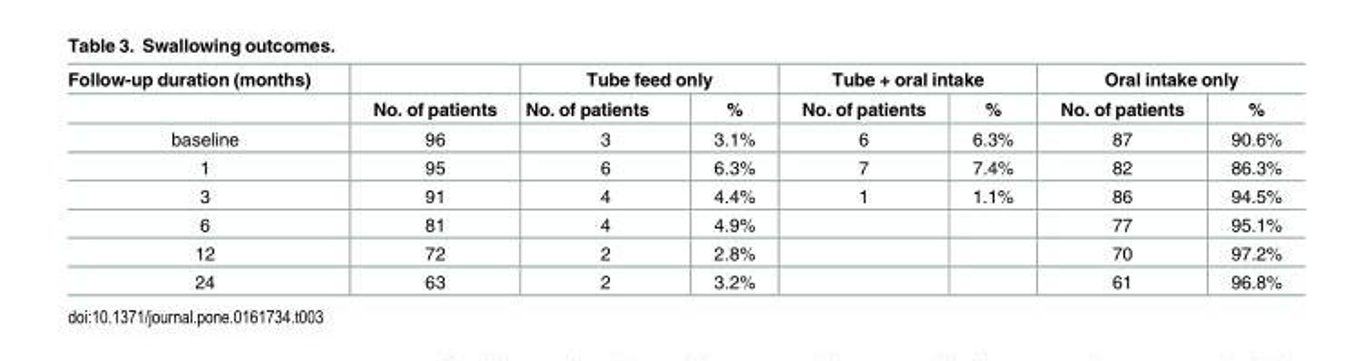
<table><thead><tr><td rowspan="2">Follow-up duration (months)</td><td rowspan="2">No. of patients</td><td colspan="2">Tube feed only</td><td colspan="2">Tube + oral intake</td><td colspan="2">Oral intake only</td></tr><tr><td>No. of patients</td><td>%</td><td>No. of patients</td><td>%</td><td>No. of patients</td><td>%</td></tr></thead><tbody><tr><td>baseline</td><td>96</td><td>3</td><td>3.1%</td><td>6</td><td>6.3%</td><td>87</td><td>90.6%</td></tr><tr><td>1</td><td>95</td><td>6</td><td>6.3%</td><td>7</td><td>7.4%</td><td>82</td><td>86.3%</td></tr><tr><td>3</td><td>91</td><td>4</td><td>4.4%</td><td>1</td><td>1.1%</td><td>86</td><td>94.5%</td></tr><tr><td>6</td><td>81</td><td>4</td><td>4.9%</td><td></td><td></td><td>77</td><td>95.1%</td></tr><tr><td>12</td><td>72</td><td>2</td><td>2.8%</td><td></td><td></td><td>70</td><td>97.2%</td></tr><tr><td>24</td><td>63</td><td>2</td><td>3.2%</td><td></td><td></td><td>61</td><td>96.8%</td></tr></tbody></table>